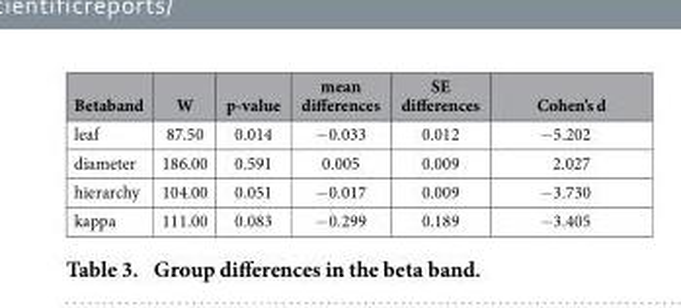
<table><thead><tr><td>Betaband</td><td>W</td><td>p-value</td><td>mean differences</td><td>SE differences</td><td>Cohen’s d</td></tr></thead><tbody><tr><td>leaf</td><td>87.50</td><td>0.014</td><td>− 0.033</td><td>0.012</td><td>− 5.202</td></tr><tr><td>diameter</td><td>186.00</td><td>0.591</td><td>0.005</td><td>0.009</td><td>2.027</td></tr><tr><td>hierarchy</td><td>104.00</td><td>0.051</td><td>− 0.017</td><td>0.009</td><td>− 3.730</td></tr><tr><td>kappa</td><td>111.00</td><td>0.083</td><td>− 0.299</td><td>0.189</td><td>− 3.405</td></tr></tbody></table>